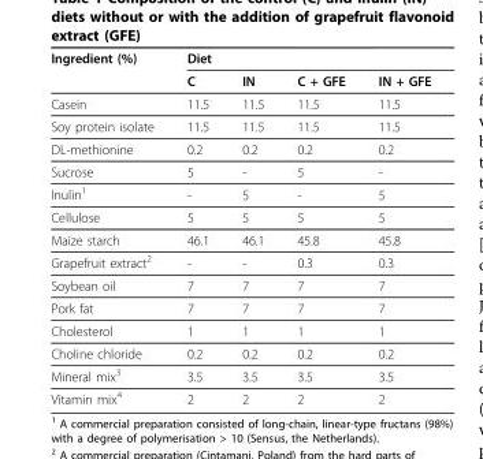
<table><thead><tr><td rowspan="2">Ingredient (%)</td><td colspan="4">Diet</td></tr><tr><td>C</td><td>IN</td><td>C + GFE</td><td>IN + GFE</td></tr></thead><tbody><tr><td>Casein</td><td>11.5</td><td>11.5</td><td>11.5</td><td>11.5</td></tr><tr><td>Soy protein isolate</td><td>11.5</td><td>11.5</td><td>11.5</td><td>11.5</td></tr><tr><td>DL-methionine</td><td>0.2</td><td>0.2</td><td>0.2</td><td>0.2</td></tr><tr><td>Sucrose</td><td>5</td><td>-</td><td>5</td><td>-</td></tr><tr><td>Inulin<sup>1</sup></td><td>-</td><td>5</td><td>-</td><td>5</td></tr><tr><td>Cellulose</td><td>5</td><td>5</td><td>5</td><td>5</td></tr><tr><td>Maize starch</td><td>46.1</td><td>46.1</td><td>45.8</td><td>45.8</td></tr><tr><td>Grapefruit extract<sup>2</sup></td><td>-</td><td>-</td><td>0.3</td><td>0.3</td></tr><tr><td>Soybean oil</td><td>7</td><td>7</td><td>7</td><td>7</td></tr><tr><td>Pork fat</td><td>7</td><td>7</td><td>7</td><td>7</td></tr><tr><td>Cholesterol</td><td>1</td><td>1</td><td>1</td><td>1</td></tr><tr><td>Choline chloride</td><td>0.2</td><td>0.2</td><td>0.2</td><td>0.2</td></tr><tr><td>Mineral mix<sup>3</sup></td><td>3.5</td><td>3.5</td><td>3.5</td><td>3.5</td></tr><tr><td>Vitamin mix<sup>4</sup></td><td>2</td><td>2</td><td>2</td><td>2</td></tr></tbody></table>